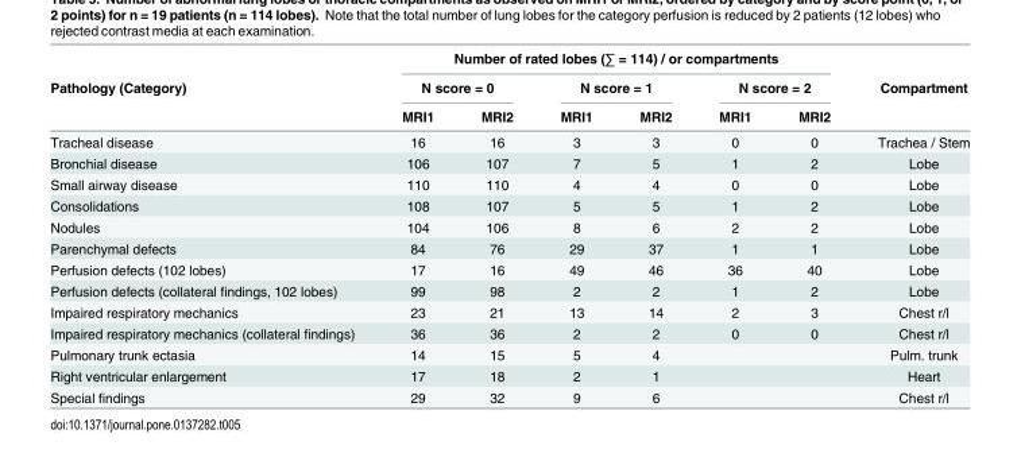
<table><thead><tr><td rowspan="3">Pathology (Category)</td><td colspan="6">Number of rated lobes (∑ = 114) / or compartments</td><td rowspan="3">Compartment</td></tr><tr><td colspan="2">N score = 0</td><td colspan="2">N score = 1</td><td colspan="2">N score = 2</td></tr><tr><td>MRI1</td><td>MRI2</td><td>MRI1</td><td>MRI2</td><td>MRI1</td><td>MRI2</td></tr></thead><tbody><tr><td>Tracheal disease</td><td>16</td><td>16</td><td>3</td><td>3</td><td>0</td><td>0</td><td>Trachea / Stem</td></tr><tr><td>Bronchial disease</td><td>106</td><td>107</td><td>7</td><td>5</td><td>1</td><td>2</td><td>Lobe</td></tr><tr><td>Small airway disease</td><td>110</td><td>110</td><td>4</td><td>4</td><td>0</td><td>0</td><td>Lobe</td></tr><tr><td>Consolidations</td><td>108</td><td>107</td><td>5</td><td>5</td><td>1</td><td>2</td><td>Lobe</td></tr><tr><td>Nodules</td><td>104</td><td>106</td><td>8</td><td>6</td><td>2</td><td>2</td><td>Lobe</td></tr><tr><td>Parenchymal defects</td><td>84</td><td>76</td><td>29</td><td>37</td><td>1</td><td>1</td><td>Lobe</td></tr><tr><td>Perfusion defects (102 lobes)</td><td>17</td><td>16</td><td>49</td><td>46</td><td>36</td><td>40</td><td>Lobe</td></tr><tr><td>Perfusion defects (collateral findings, 102 lobes)</td><td>99</td><td>98</td><td>2</td><td>2</td><td>1</td><td>2</td><td>Lobe</td></tr><tr><td>Impaired respiratory mechanics</td><td>23</td><td>21</td><td>13</td><td>14</td><td>2</td><td>3</td><td>Chest r/l</td></tr><tr><td>Impaired respiratory mechanics (collateral findings)</td><td>36</td><td>36</td><td>2</td><td>2</td><td>0</td><td>0</td><td>Chest r/l</td></tr><tr><td>Pulmonary trunk ectasia</td><td>14</td><td>15</td><td>5</td><td>4</td><td></td><td></td><td>Pulm. trunk</td></tr><tr><td>Right ventricular enlargement</td><td>17</td><td>18</td><td>2</td><td>1</td><td></td><td></td><td>Heart</td></tr><tr><td>Special findings</td><td>29</td><td>32</td><td>9</td><td>6</td><td></td><td></td><td>Chest r/l</td></tr></tbody></table>